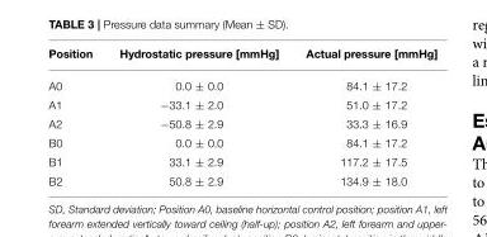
<table><thead><tr><td>Position</td><td>Hydrostatic pressure [mmHg]</td><td>Actual pressure [mmHg]</td></tr></thead><tbody><tr><td>A0</td><td>0.0 ± 0.0</td><td>84.1 ± 17.2</td></tr><tr><td>A1</td><td>−33.1 ± 2.0</td><td>51.0 ± 17.2</td></tr><tr><td>A2</td><td>−50.8 ± 2.9</td><td>33.3 ± 16.9</td></tr><tr><td>B0</td><td>0.0 ± 0.0</td><td>84.1 ± 17.2</td></tr><tr><td>B1</td><td>33.1 ± 2.9</td><td>117.2 ± 17.5</td></tr><tr><td>B2</td><td>50.8 ± 2.9</td><td>134.9 ± 18.0</td></tr></tbody></table>